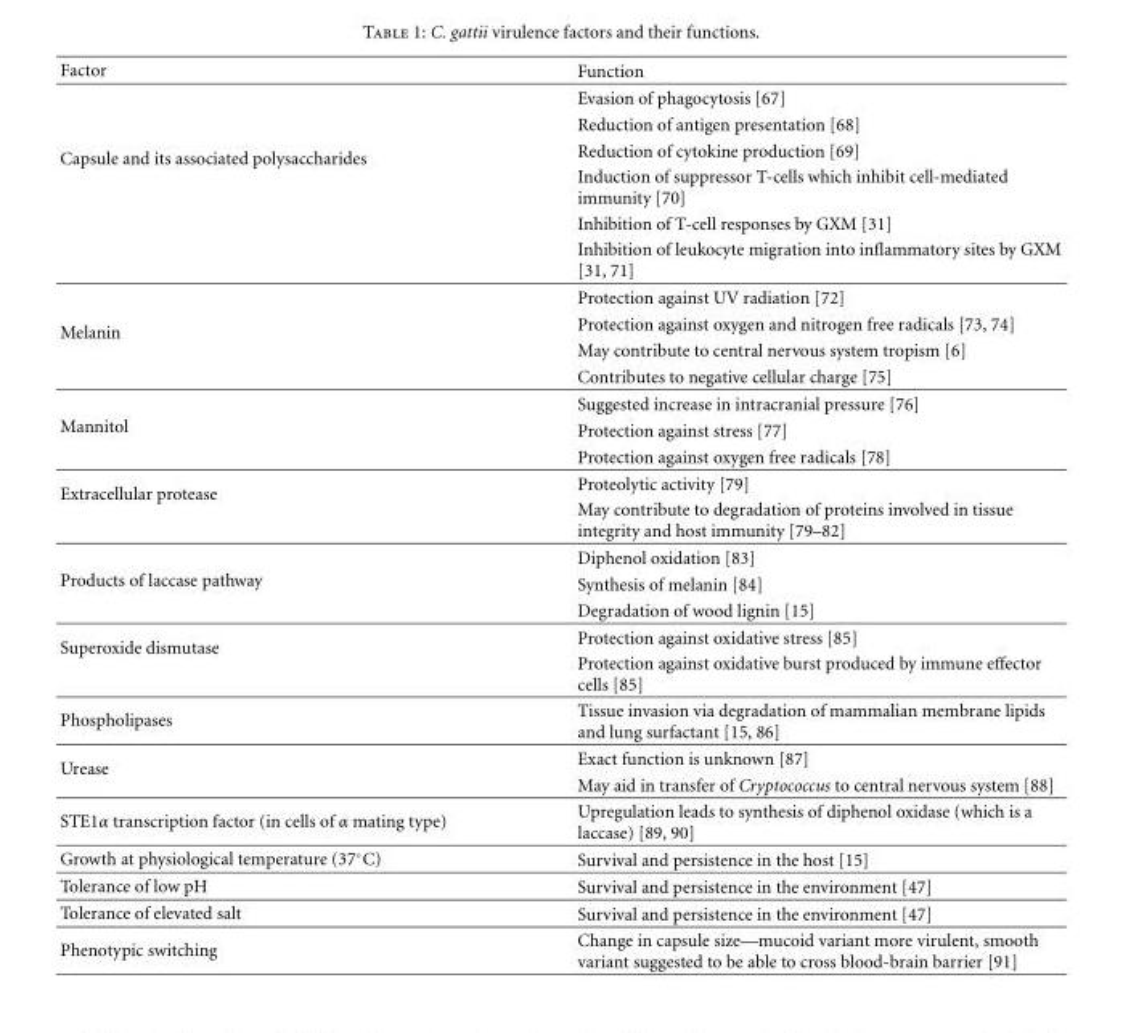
<table><thead><tr><td>Factor</td><td>Function</td></tr></thead><tbody><tr><td rowspan="6">Capsule and its associated polysaccharides</td><td>Evasion of phagocytosis [67]</td></tr><tr><td>Reduction of antigen presentation [68]</td></tr><tr><td>Reduction of cytokine production [69]</td></tr><tr><td>Induction of suppressor T-cells which inhibit cell-mediated immunity [70]</td></tr><tr><td>Inhibition of T-cell responses by GXM [31]</td></tr><tr><td>Inhibition of leukocyte migration into inflammatory sites by GXM [31, 71]</td></tr><tr><td rowspan="4">Melanin</td><td>Protection against UV radiation [72]</td></tr><tr><td>Protection against oxygen and nitrogen free radicals [73, 74]</td></tr><tr><td>May contribute to central nervous system tropism [6]</td></tr><tr><td>Contributes to negative cellular charge [75]</td></tr><tr><td rowspan="3">Mannitol</td><td>Suggested increase in intracranial pressure [76]</td></tr><tr><td>Protection against stress [77]</td></tr><tr><td>Protection against oxygen free radicals [78]</td></tr><tr><td rowspan="2">Extracellular protease</td><td>Proteolytic activity [79]</td></tr><tr><td>May contribute to degradation of proteins involved in tissue integrity and host immunity [79–82]</td></tr><tr><td rowspan="3">Products of laccase pathway</td><td>Diphenol oxidation [83]</td></tr><tr><td>Synthesis of melanin [84]</td></tr><tr><td>Degradation of wood lignin [15]</td></tr><tr><td rowspan="2">Superoxide dismutase</td><td>Protection against oxidative stress [85]</td></tr><tr><td>Protection against oxidative burst produced by immune effector cells [85]</td></tr><tr><td>Phospholipases</td><td>Tissue invasion via degradation of mammalian membrane lipids and lung surfactant [15, 86]</td></tr><tr><td rowspan="2">Urease</td><td>Exact function is unknown [87]</td></tr><tr><td>May aid in transfer of Cryptococcus to central nervous system [88]</td></tr><tr><td>STE1α transcription factor (in cells of α mating type)</td><td>Upregulation leads to synthesis of diphenol oxidase (which is a laccase) [89, 90]</td></tr><tr><td>Growth at physiological temperature (37◦C)</td><td>Survival and persistence in the host [15]</td></tr><tr><td>Tolerance of low pH</td><td>Survival and persistence in the environment [47]</td></tr><tr><td>Tolerance of elevated salt</td><td>Survival and persistence in the environment [47]</td></tr><tr><td>Phenotypic switching</td><td>Change in capsule size—mucoid variant more virulent, smooth variant suggested to be able to cross blood-brain barrier [91]</td></tr></tbody></table>